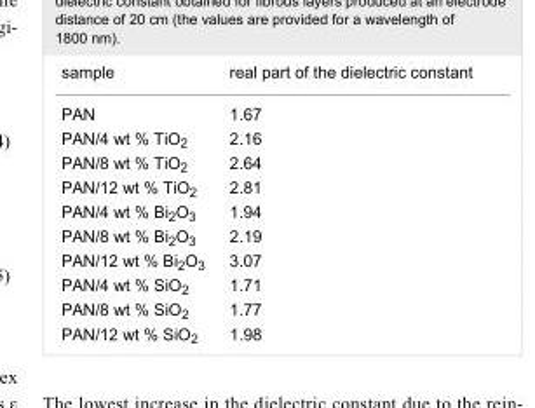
<table><tbody><tr><td>sample</td><td>real part of the dielectric constant</td></tr><tr><td>PAN</td><td>1.67</td></tr><tr><td>PAN/4 wt % TiO<sub>2</sub></td><td>2.16</td></tr><tr><td>PAN/8 wt % TiO<sub>2</sub></td><td>2.64</td></tr><tr><td>PAN/12 wt % TiO<sub>2</sub></td><td>2.81</td></tr><tr><td>PAN/4 wt % Bi<sub>2</sub>O<sub>3</sub></td><td>1.94</td></tr><tr><td>PAN/8 wt % Bi<sub>2</sub>O<sub>3</sub></td><td>2.19</td></tr><tr><td>PAN/12 wt % Bi<sub>2</sub>O<sub>3</sub></td><td>3.07</td></tr><tr><td>PAN/4 wt % SiO<sub>2</sub></td><td>1.71</td></tr><tr><td>PAN/8 wt % SiO<sub>2</sub></td><td>1.77</td></tr><tr><td>PAN/12 wt % SiO<sub>2</sub></td><td>1.98</td></tr></tbody></table>